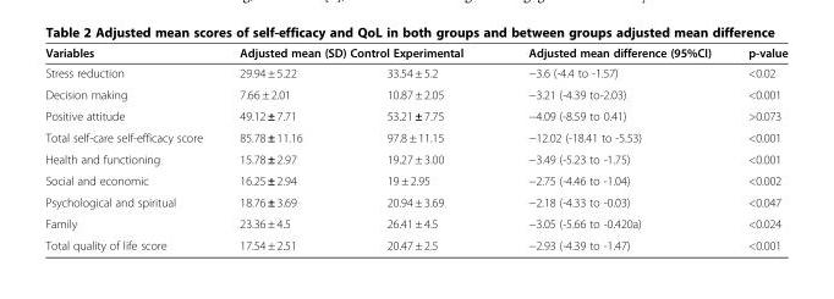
<table><thead><tr><td rowspan="2">Variables Stress reduction</td><td colspan="2">Adjusted mean (SD) Control Experimental</td><td rowspan="2">Adjusted mean difference (95%CI) −3.6 (-4.4 to -1.57)</td><td rowspan="2">p-value &lt;0.02</td></tr><tr><td>29.94 ± 5.22</td><td>33.54 ± 5.2</td></tr></thead><tbody><tr><td>Decision making</td><td>7.66 ± 2.01</td><td>10.87 ± 2.05</td><td>−3.21 (-4.39 to-2.03)</td><td>&lt;0.001</td></tr><tr><td>Positive attitude</td><td>49.12 ± 7.71</td><td>53.21 ± 7.75</td><td>−4.09 (-8.59 to 0.41)</td><td>&gt;0.073</td></tr><tr><td>Total self-care self-efficacy score</td><td>85.78 ± 11.16</td><td>97.8 ± 11.15</td><td>−12.02 (-18.41 to -5.53)</td><td>&lt;0.001</td></tr><tr><td>Health and functioning</td><td>15.78 ± 2.97</td><td>19.27 ± 3.00</td><td>−3.49 (-5.23 to -1.75)</td><td>&lt;0.001</td></tr><tr><td>Social and economic</td><td>16.25 ± 2.94</td><td>19 ± 2.95</td><td>−2.75 (-4.46 to -1.04)</td><td>&lt;0.002</td></tr><tr><td>Psychological and spiritual</td><td>18.76 ± 3.69</td><td>20.94 ± 3.69</td><td>−2.18 (-4.33 to -0.03)</td><td>&lt;0.047</td></tr><tr><td>Family</td><td>23.36 ± 4.5</td><td>26.41 ± 4.5</td><td>−3.05 (-5.66 to -0.420a)</td><td>&lt;0.024</td></tr><tr><td>Total quality of life score</td><td>17.54 ± 2.51</td><td>20.47 ± 2.5</td><td>−2.93 (-4.39 to -1.47)</td><td>&lt;0.001</td></tr></tbody></table>